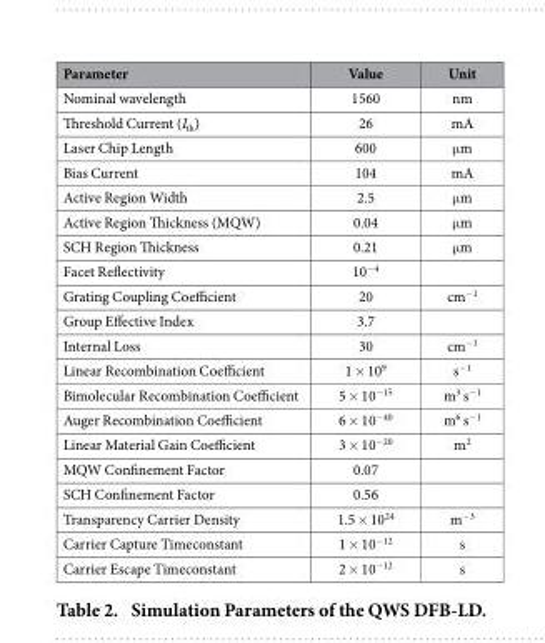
<table><thead><tr><td>Parameter</td><td>Value</td><td>Unit</td></tr></thead><tbody><tr><td>Nominal wavelength</td><td>1560</td><td>nm</td></tr><tr><td>Threshold Current (I<sub>th</sub>)</td><td>26</td><td>mA</td></tr><tr><td>Laser Chip Length</td><td>600</td><td>μ m</td></tr><tr><td>Bias Current</td><td>104</td><td>mA</td></tr><tr><td>Active Region Width</td><td>2.5</td><td>μ m</td></tr><tr><td>Active Region Thickness (MQW)</td><td>0.04</td><td>μ m</td></tr><tr><td>SCH Region Thickness</td><td>0.21</td><td>μ m</td></tr><tr><td>Facet Reflectivity</td><td>10<sup>−4</sup></td><td></td></tr><tr><td>Grating Coupling Coefficient</td><td>20</td><td>cm<sup>−1</sup></td></tr><tr><td>Group Effective Index</td><td>3.7</td><td></td></tr><tr><td>Internal Loss</td><td>30</td><td>cm<sup>−1</sup></td></tr><tr><td>Linear Recombination Coefficient</td><td>1 × 10<sup>9</sup></td><td>s<sup>−1</sup></td></tr><tr><td>Bimolecular Recombination Coefficient</td><td>5 × 10<sup>−15</sup></td><td>m<sup>3</sup> s<sup>−1</sup></td></tr><tr><td>Auger Recombination Coefficient</td><td>6 × 10<sup>−40</sup></td><td>m<sup>6</sup> s<sup>−1</sup></td></tr><tr><td>Linear Material Gain Coefficient</td><td>3 × 10<sup>−20</sup></td><td>m<sup>2</sup></td></tr><tr><td>MQW Confinement Factor</td><td>0.07</td><td></td></tr><tr><td>SCH Confinement Factor</td><td>0.56</td><td></td></tr><tr><td>Transparency Carrier Density</td><td>1.5 × 10<sup>24</sup></td><td>m<sup>−3</sup></td></tr><tr><td>Carrier Capture Timeconstant</td><td>1 × 10<sup>−12</sup></td><td>s</td></tr><tr><td>Carrier Escape Timeconstant</td><td>2 × 10<sup>−12</sup></td><td>s</td></tr></tbody></table>